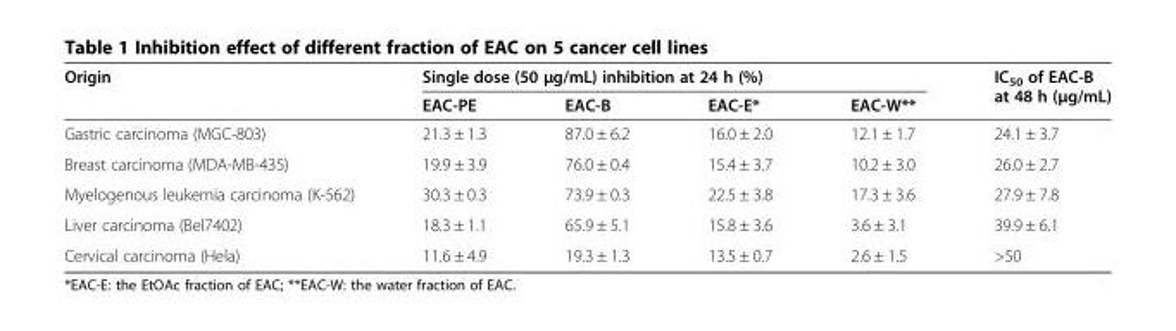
<table><thead><tr><td rowspan="2">Origin</td><td colspan="4">Single dose (50 μg/mL) inhibition at 24 h (%)</td><td rowspan="2">IC<sub>50</sub> of EAC-B at 48 h (μg/mL)</td></tr><tr><td>EAC-PE</td><td>EAC-B</td><td>EAC-E*</td><td>EAC-W**</td></tr></thead><tbody><tr><td>Gastric carcinoma (MGC-803)</td><td>21.3 ± 1.3</td><td>87.0 ± 6.2</td><td>16.0 ± 2.0</td><td>12.1 ± 1.7</td><td>24.1 ± 3.7</td></tr><tr><td>Breast carcinoma (MDA-MB-435)</td><td>19.9 ± 3.9</td><td>76.0 ± 0.4</td><td>15.4 ± 3.7</td><td>10.2 ± 3.0</td><td>26.0 ± 2.7</td></tr><tr><td>Myelogenous leukemia carcinoma (K-562)</td><td>30.3 ± 0.3</td><td>73.9 ± 0.3</td><td>22.5 ± 3.8</td><td>17.3 ± 3.6</td><td>27.9 ± 7.8</td></tr><tr><td>Liver carcinoma (Bel7402)</td><td>18.3 ± 1.1</td><td>65.9 ± 5.1</td><td>15.8 ± 3.6</td><td>3.6 ± 3.1</td><td>39.9 ± 6.1</td></tr><tr><td>Cervical carcinoma (Hela)</td><td>11.6 ± 4.9</td><td>19.3 ± 1.3</td><td>13.5 ± 0.7</td><td>2.6 ± 1.5</td><td>&gt;50</td></tr></tbody></table>